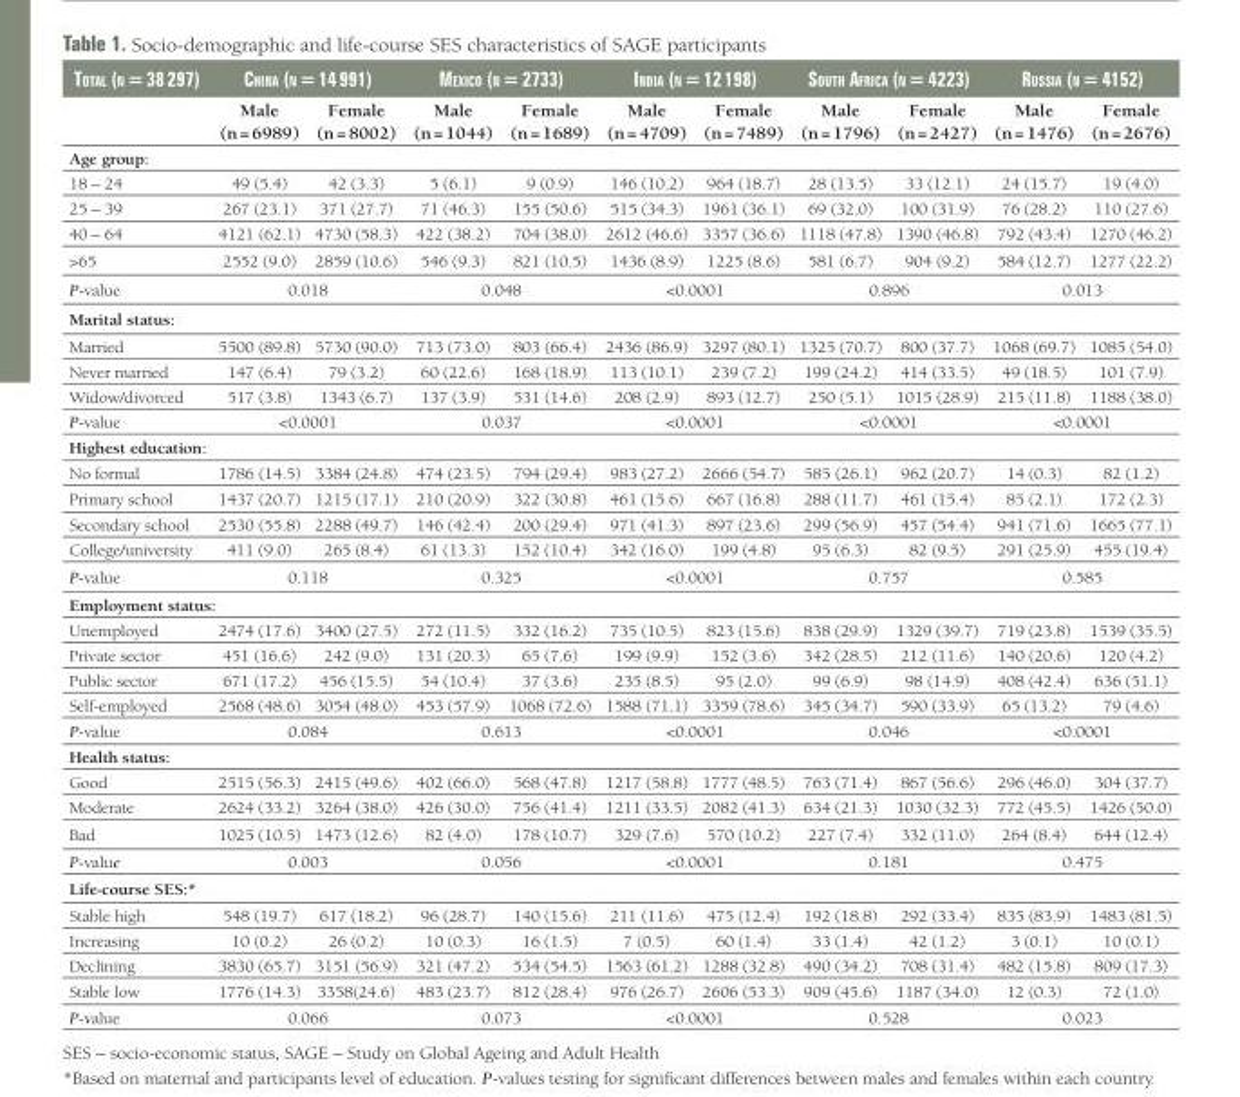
<table><thead><tr><td rowspan="2">ToTal (n = 38 297)</td><td colspan="2">China (n = 14 991)</td><td colspan="2">MexiCo (n = 2733)</td><td colspan="2">india (n = 12 198)</td><td colspan="2">SouTh afriCa (n = 4223)</td><td colspan="2">ruSSia (n = 4152)</td></tr><tr><td>Male (n = 6989)</td><td>Female (n = 8002)</td><td>Male (n = 1044)</td><td>Female (n = 1689)</td><td>Male (n = 4709)</td><td>Female (n = 7489)</td><td>Male (n = 1796)</td><td>Female (n = 2427)</td><td>Male (n = 1476)</td><td>Female (n = 2676)</td></tr></thead><tbody><tr><td colspan="11">Age group:</td></tr><tr><td>18 – 24</td><td>49 (5.4)</td><td>42 (3.3)</td><td>5 (6.1)</td><td>9 (0.9)</td><td>146 (10.2)</td><td>964 (18.7)</td><td>28 (13.5)</td><td>33 (12.1)</td><td>24 (15.7)</td><td>19 (4.0)</td></tr><tr><td>25 – 39</td><td>267 (23.1)</td><td>371 (27.7)</td><td>71 (46.3)</td><td>155 (50.6)</td><td>515 (34.3)</td><td>1961 (36.1)</td><td>69 (32.0)</td><td>100 (31.9)</td><td>76 (28.2)</td><td>110 (27.6)</td></tr><tr><td>40 – 64</td><td>4121 (62.1)</td><td>4730 (58.3)</td><td>422 (38.2)</td><td>704 (38.0)</td><td>2612 (46.6)</td><td>3357 (36.6)</td><td>1118 (47.8)</td><td>1390 (46.8)</td><td>792 (43.4)</td><td>1270 (46.2)</td></tr><tr><td>&gt;65</td><td>2552 (9.0)</td><td>2859 (10.6)</td><td>546 (9.3)</td><td>821 (10.5)</td><td>1436 (8.9)</td><td>1225 (8.6)</td><td>581 (6.7)</td><td>904 (9.2)</td><td>584 (12.7)</td><td>1277 (22.2)</td></tr><tr><td>P-value</td><td colspan="2">0.018</td><td colspan="2">0.048</td><td colspan="2">&lt;0.0001</td><td colspan="2">0.896</td><td colspan="2">0.013</td></tr><tr><td colspan="11">Marital status:</td></tr><tr><td>Married</td><td>5500 (89.8)</td><td>5730 (90.0)</td><td>713 (73.0)</td><td>803 (66.4)</td><td>2436 (86.9)</td><td>3297 (80.1)</td><td>1325 (70.7)</td><td>800 (37.7)</td><td>1068 (69.7)</td><td>1085 (54.0)</td></tr><tr><td>Never married</td><td>147 (6.4)</td><td>79 (3.2)</td><td>60 (22.6)</td><td>168 (18.9)</td><td>113 (10.1)</td><td>239 (7.2)</td><td>199 (24.2)</td><td>414 (33.5)</td><td>49 (18.5)</td><td>101 (7.9)</td></tr><tr><td>Widow/divorced</td><td>517 (3.8)</td><td>1343 (6.7)</td><td>137 (3.9)</td><td>531 (14.6)</td><td>208 (2.9)</td><td>893 (12.7)</td><td>250 (5.1)</td><td>1015 (28.9)</td><td>215 (11.8)</td><td>1188 (38.0)</td></tr><tr><td>P-value</td><td colspan="2">&lt;0.0001</td><td colspan="2">0.037</td><td colspan="2">&lt;0.0001</td><td colspan="2">&lt;0.0001</td><td colspan="2">&lt;0.0001</td></tr><tr><td colspan="11">Highest education:</td></tr><tr><td>No formal</td><td>1786 (14.5)</td><td>3384 (24.8)</td><td>474 (23.5)</td><td>794 (29.4)</td><td>983 (27.2)</td><td>2666 (54.7)</td><td>585 (26.1)</td><td>962 (20.7)</td><td>14 (0.3)</td><td>82 (1.2)</td></tr><tr><td>Primary school</td><td>1437 (20.7)</td><td>1215 (17.1)</td><td>210 (20.9)</td><td>322 (30.8)</td><td>461 (15.6)</td><td>667 (16.8)</td><td>288 (11.7)</td><td>461 (15.4)</td><td>85 (2.1)</td><td>172 (2.3)</td></tr><tr><td>Secondary school</td><td>2530 (55.8)</td><td>2288 (49.7)</td><td>146 (42.4)</td><td>200 (29.4)</td><td>971 (41.3)</td><td>897 (23.6)</td><td>299 (56.9)</td><td>457 (54.4)</td><td>941 (71.6)</td><td>1665 (77.1)</td></tr><tr><td>College/university</td><td>411 (9.0)</td><td>265 (8.4)</td><td>61 (13.3)</td><td>152 (10.4)</td><td>342 (16.0)</td><td>199 (4.8)</td><td>95 (6.3)</td><td>82 (9.5)</td><td>291 (25.9)</td><td>455 (19.4)</td></tr><tr><td>P-value</td><td colspan="2">0.118</td><td colspan="2">0.325</td><td colspan="2">&lt;0.0001</td><td colspan="2">0.757</td><td colspan="2">0.585</td></tr><tr><td colspan="11">Employment status:</td></tr><tr><td>Unemployed</td><td>2474 (17.6)</td><td>3400 (27.5)</td><td>272 (11.5)</td><td>332 (16.2)</td><td>735 (10.5)</td><td>823 (15.6)</td><td>838 (29.9)</td><td>1329 (39.7)</td><td>719 (23.8)</td><td>1539 (35.5)</td></tr><tr><td>Private sector</td><td>451 (16.6)</td><td>242 (9.0)</td><td>131 (20.3)</td><td>65 (7.6)</td><td>199 (9.9)</td><td>152 (3.6)</td><td>342 (28.5)</td><td>212 (11.6)</td><td>140 (20.6)</td><td>120 (4.2)</td></tr><tr><td>Public sector</td><td>671 (17.2)</td><td>456 (15.5)</td><td>54 (10.4)</td><td>37 (3.6)</td><td>235 (8.5)</td><td>95 (2.0)</td><td>99 (6.9)</td><td>98 (14.9)</td><td>408 (42.4)</td><td>636 (51.1)</td></tr><tr><td>Self-employed</td><td>2568 (48.6)</td><td>3054 (48.0)</td><td>453 (57.9)</td><td>1068 (72.6)</td><td>1588 (71.1)</td><td>3359 (78.6)</td><td>345 (34.7)</td><td>590 (33.9)</td><td>65 (13.2)</td><td>79 (4.6)</td></tr><tr><td>P-value</td><td colspan="2">0.084</td><td colspan="2">0.613</td><td colspan="2">&lt;0.0001</td><td colspan="2">0.046</td><td colspan="2">&lt;0.0001</td></tr><tr><td colspan="11">Health status:</td></tr><tr><td>Good</td><td>2515 (56.3)</td><td>2415 (49.6)</td><td>402 (66.0)</td><td>568 (47.8)</td><td>1217 (58.8)</td><td>1777 (48.5)</td><td>763 (71.4)</td><td>867 (56.6)</td><td>296 (46.0)</td><td>304 (37.7)</td></tr><tr><td>Moderate</td><td>2624 (33.2)</td><td>3264 (38.0)</td><td>426 (30.0)</td><td>756 (41.4)</td><td>1211 (33.5)</td><td>2082 (41.3)</td><td>634 (21.3)</td><td>1030 (32.3)</td><td>772 (45.5)</td><td>1426 (50.0)</td></tr><tr><td>Bad</td><td>1025 (10.5)</td><td>1473 (12.6)</td><td>82 (4.0)</td><td>178 (10.7)</td><td>329 (7.6)</td><td>570 (10.2)</td><td>227 (7.4)</td><td>332 (11.0)</td><td>264 (8.4)</td><td>644 (12.4)</td></tr><tr><td>P-value</td><td colspan="2">0.003</td><td colspan="2">0.056</td><td colspan="2">&lt;0.0001</td><td colspan="2">0.181</td><td colspan="2">0.475</td></tr><tr><td colspan="11">Life-course SES:*</td></tr><tr><td>Stable high</td><td>548 (19.7)</td><td>617 (18.2)</td><td>96 (28.7)</td><td>140 (15.6)</td><td>211 (11.6)</td><td>475 (12.4)</td><td>192 (18.8)</td><td>292 (33.4)</td><td>835 (83.9)</td><td>1483 (81.5)</td></tr><tr><td>Increasing</td><td>10 (0.2)</td><td>26 (0.2)</td><td>10 (0.3)</td><td>16 (1.5)</td><td>7 (0.5)</td><td>60 (1.4)</td><td>33 (1.4)</td><td>42 (1.2)</td><td>3 (0.1)</td><td>10 (0.1)</td></tr><tr><td>Declining</td><td>3830 (65.7)</td><td>3151 (56.9)</td><td>321 (47.2)</td><td>534 (54.5)</td><td>1563 (61.2)</td><td>1288 (32.8)</td><td>490 (34.2)</td><td>708 (31.4)</td><td>482 (15.8)</td><td>809 (17.3)</td></tr><tr><td>Stable low</td><td>1776 (14.3)</td><td>3358(24.6)</td><td>483 (23.7)</td><td>812 (28.4)</td><td>976 (26.7)</td><td>2606 (53.3)</td><td>909 (45.6)</td><td>1187 (34.0)</td><td>12 (0.3)</td><td>72 (1.0)</td></tr><tr><td>P-value</td><td colspan="2">0.066</td><td colspan="2">0.073</td><td colspan="2">&lt;0.0001</td><td colspan="2">0.528</td><td colspan="2">0.023</td></tr></tbody></table>